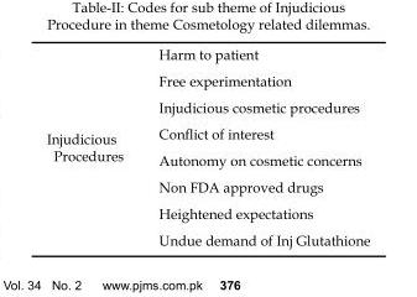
<table><tbody><tr><td rowspan="8">Injudicious Procedures</td><td>Harm to patient</td></tr><tr><td>Free experimentation</td></tr><tr><td>Injudicious cosmetic procedures</td></tr><tr><td>Conflict of interest</td></tr><tr><td>Autonomy on cosmetic concerns</td></tr><tr><td>Non FDA approved drugs</td></tr><tr><td>Heightened expectations</td></tr><tr><td>Undue demand of Inj Glutathione</td></tr></tbody></table>